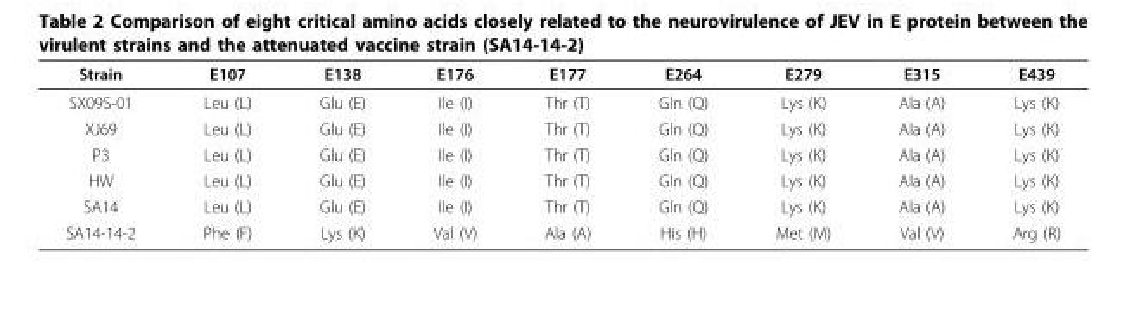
<table><thead><tr><td>Strain</td><td>E107</td><td>E138</td><td>E176</td><td>E177</td><td>E264</td><td>E279</td><td>E315</td><td>E439</td></tr></thead><tbody><tr><td>SX09S-01</td><td>Leu (L)</td><td>Glu (E)</td><td>Ile (I)</td><td>Thr (T)</td><td>Gln (Q)</td><td>Lys (K)</td><td>Ala (A)</td><td>Lys (K)</td></tr><tr><td>XJ69</td><td>Leu (L)</td><td>Glu (E)</td><td>Ile (I)</td><td>Thr (T)</td><td>Gln (Q)</td><td>Lys (K)</td><td>Ala (A)</td><td>Lys (K)</td></tr><tr><td>P3</td><td>Leu (L)</td><td>Glu (E)</td><td>Ile (I)</td><td>Thr (T)</td><td>Gln (Q)</td><td>Lys (K)</td><td>Ala (A)</td><td>Lys (K)</td></tr><tr><td>HW</td><td>Leu (L)</td><td>Glu (E)</td><td>Ile (I)</td><td>Thr (T)</td><td>Gln (Q)</td><td>Lys (K)</td><td>Ala (A)</td><td>Lys (K)</td></tr><tr><td>SA14</td><td>Leu (L)</td><td>Glu (E)</td><td>Ile (I)</td><td>Thr (T)</td><td>Gln (Q)</td><td>Lys (K)</td><td>Ala (A)</td><td>Lys (K)</td></tr><tr><td>SA14-14-2</td><td>Phe (F)</td><td>Lys (K)</td><td>Val (V)</td><td>Ala (A)</td><td>His (H)</td><td>Met (M)</td><td>Val (V)</td><td>Arg (R)</td></tr></tbody></table>